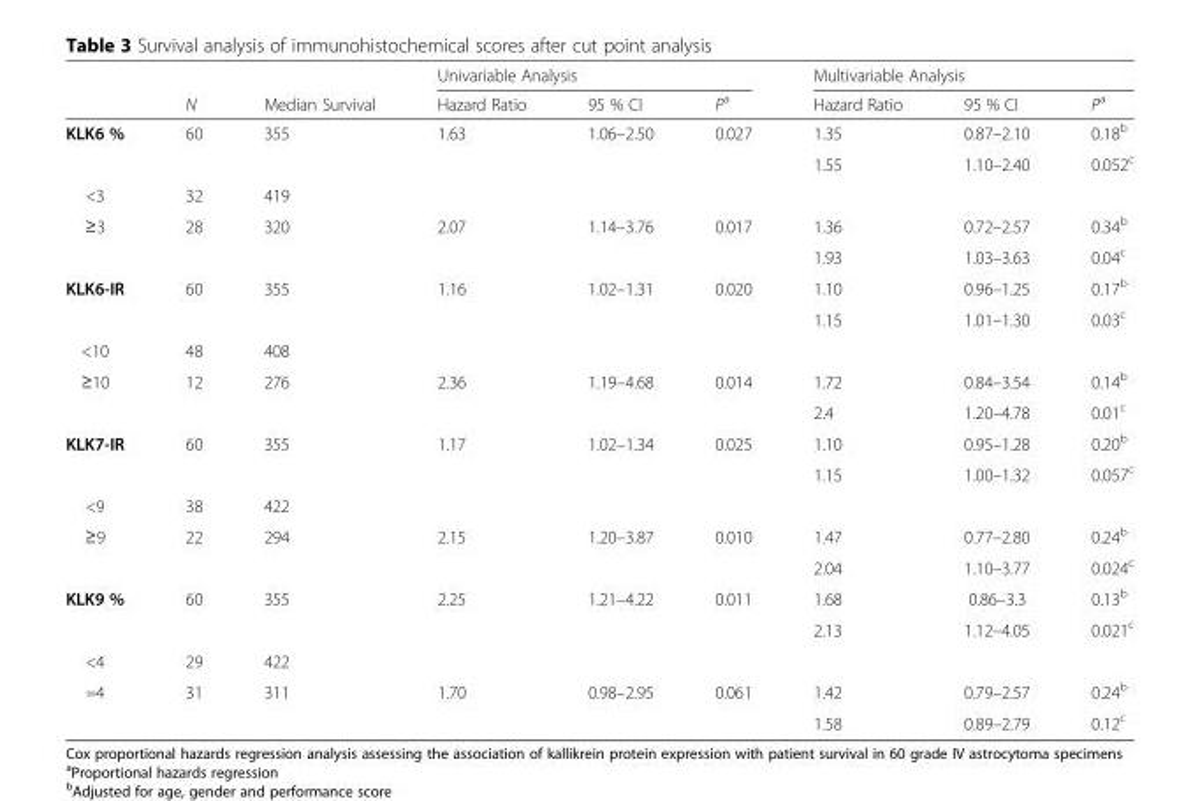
<table><thead><tr><td rowspan="2"></td><td rowspan="2">N</td><td rowspan="2">Median Survival</td><td colspan="3">Univariable Analysis</td><td colspan="3">Multivariable Analysis</td></tr><tr><td>Hazard Ratio</td><td>95 % CI</td><td>P<sup>a</sup></td><td>Hazard Ratio</td><td>95 % CI</td><td>P<sup>a</sup></td></tr></thead><tbody><tr><td rowspan="2">KLK6 %</td><td>60</td><td>355</td><td>1.63</td><td>1.06–2.50</td><td>0.027</td><td>1.35</td><td>0.87–2.10</td><td>0.18<sup>b</sup></td></tr><tr><td></td><td></td><td></td><td></td><td></td><td>1.55</td><td>1.10–2.40</td><td>0.052<sup>c</sup></td></tr><tr><td>&lt;3</td><td>32</td><td>419</td><td></td><td></td><td></td><td></td><td></td><td></td></tr><tr><td rowspan="2">≥3</td><td>28</td><td>320</td><td>2.07</td><td>1.14–3.76</td><td>0.017</td><td>1.36</td><td>0.72–2.57</td><td>0.34<sup>b</sup></td></tr><tr><td></td><td></td><td></td><td></td><td></td><td>1.93</td><td>1.03–3.63</td><td>0.04<sup>c</sup></td></tr><tr><td rowspan="2">KLK6-IR</td><td>60</td><td>355</td><td>1.16</td><td>1.02–1.31</td><td>0.020</td><td>1.10</td><td>0.96–1.25</td><td>0.17<sup>b</sup></td></tr><tr><td></td><td></td><td></td><td></td><td></td><td>1.15</td><td>1.01–1.30</td><td>0.03<sup>c</sup></td></tr><tr><td>&lt;10</td><td>48</td><td>408</td><td></td><td></td><td></td><td></td><td></td><td></td></tr><tr><td rowspan="2">≥10</td><td>12</td><td>276</td><td>2.36</td><td>1.19–4.68</td><td>0.014</td><td>1.72</td><td>0.84–3.54</td><td>0.14<sup>b</sup></td></tr><tr><td></td><td></td><td></td><td></td><td></td><td>2.4</td><td>1.20–4.78</td><td>0.01<sup>c</sup></td></tr><tr><td rowspan="2">KLK7-IR</td><td>60</td><td>355</td><td>1.17</td><td>1.02–1.34</td><td>0.025</td><td>1.10</td><td>0.95–1.28</td><td>0.20<sup>b</sup></td></tr><tr><td></td><td></td><td></td><td></td><td></td><td>1.15</td><td>1.00–1.32</td><td>0.057<sup>c</sup></td></tr><tr><td>&lt;9</td><td>38</td><td>422</td><td></td><td></td><td></td><td></td><td></td><td></td></tr><tr><td rowspan="2">≥9</td><td>22</td><td>294</td><td>2.15</td><td>1.20–3.87</td><td>0.010</td><td>1.47</td><td>0.77–2.80</td><td>0.24<sup>b</sup></td></tr><tr><td></td><td></td><td></td><td></td><td></td><td>2.04</td><td>1.10–3.77</td><td>0.024<sup>c</sup></td></tr><tr><td rowspan="2">KLK9 %</td><td>60</td><td>355</td><td>2.25</td><td>1.21–4.22</td><td>0.011</td><td>1.68</td><td>0.86–3.3</td><td>0.13<sup>b</sup></td></tr><tr><td></td><td></td><td></td><td></td><td></td><td>2.13</td><td>1.12–4.05</td><td>0.021<sup>c</sup></td></tr><tr><td>&lt;4</td><td>29</td><td>422</td><td></td><td></td><td></td><td></td><td></td><td></td></tr><tr><td rowspan="2">=4</td><td>31</td><td>311</td><td>1.70</td><td>0.98–2.95</td><td>0.061</td><td>1.42</td><td>0.79–2.57</td><td>0.24<sup>b</sup></td></tr><tr><td></td><td></td><td></td><td></td><td></td><td>1.58</td><td>0.89–2.79</td><td>0.12<sup>c</sup></td></tr></tbody></table>